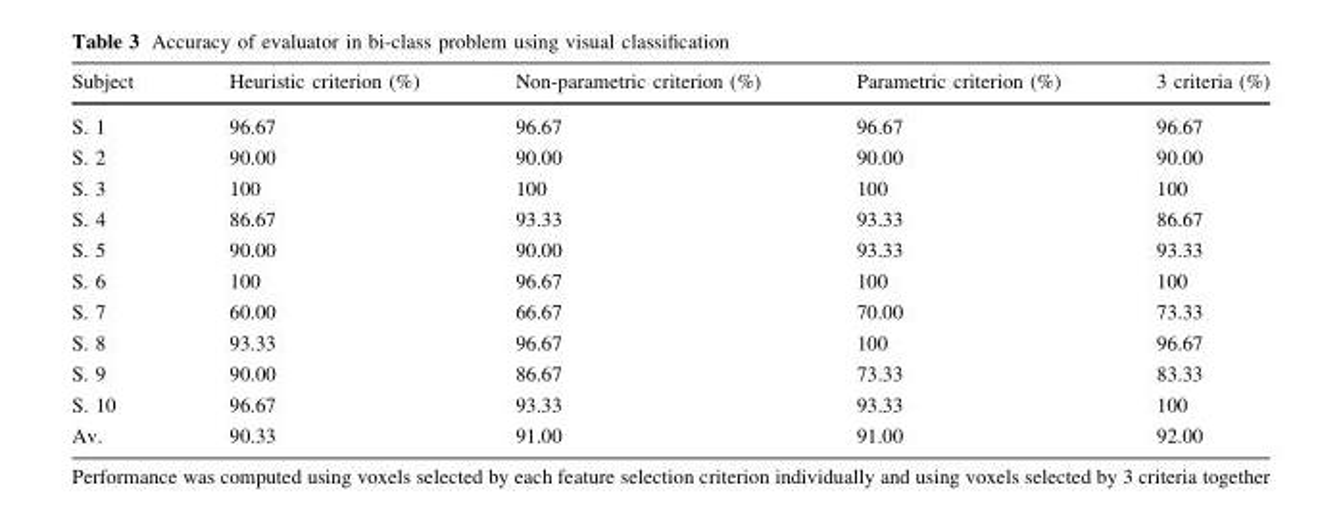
<table><thead><tr><td>Subject</td><td>Heuristic criterion (%)</td><td>Non-parametric criterion (%)</td><td>Parametric criterion (%)</td><td>3 criteria (%)</td></tr></thead><tbody><tr><td>S. 1</td><td>96.67</td><td>96.67</td><td>96.67</td><td>96.67</td></tr><tr><td>S. 2</td><td>90.00</td><td>90.00</td><td>90.00</td><td>90.00</td></tr><tr><td>S. 3</td><td>100</td><td>100</td><td>100</td><td>100</td></tr><tr><td>S. 4</td><td>86.67</td><td>93.33</td><td>93.33</td><td>86.67</td></tr><tr><td>S. 5</td><td>90.00</td><td>90.00</td><td>93.33</td><td>93.33</td></tr><tr><td>S. 6</td><td>100</td><td>96.67</td><td>100</td><td>100</td></tr><tr><td>S. 7</td><td>60.00</td><td>66.67</td><td>70.00</td><td>73.33</td></tr><tr><td>S. 8</td><td>93.33</td><td>96.67</td><td>100</td><td>96.67</td></tr><tr><td>S. 9</td><td>90.00</td><td>86.67</td><td>73.33</td><td>83.33</td></tr><tr><td>S. 10</td><td>96.67</td><td>93.33</td><td>93.33</td><td>100</td></tr><tr><td>Av.</td><td>90.33</td><td>91.00</td><td>91.00</td><td>92.00</td></tr></tbody></table>